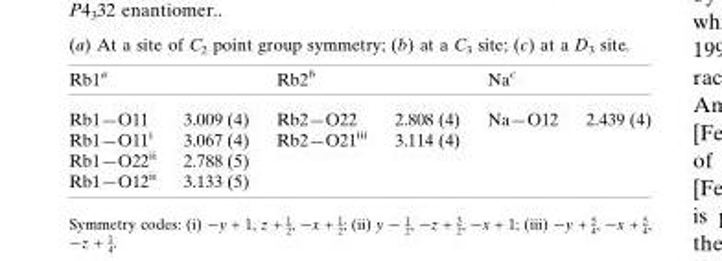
<table><thead><tr><td>Rb1a</td><td></td><td>Rb2b</td><td></td><td>Na<sup>c</sup></td><td></td></tr></thead><tbody><tr><td>Rb1—O11</td><td>3.009 (4)</td><td>Rb2—O22</td><td>2.808 (4)</td><td>Na—O12</td><td>2.439 (4)</td></tr><tr><td>Rb1—O11<sup>i</sup></td><td>3.067 (4)</td><td>Rb2—O21<sup>iii</sup></td><td>3.114 (4)</td><td></td><td></td></tr><tr><td>Rb1—O22<sup>ii</sup></td><td>2.788 (5)</td><td></td><td></td><td></td><td></td></tr><tr><td>Rb1—O12<sup>ii</sup></td><td>3.133 (5)</td><td></td><td></td><td></td><td></td></tr></tbody></table>